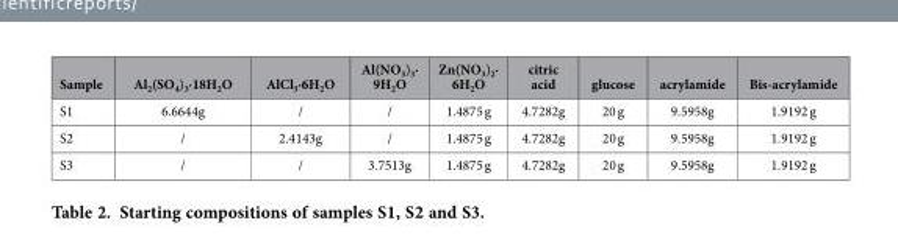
<table><thead><tr><td>Sample</td><td>Al<sub>2</sub>(SO<sub>4</sub>)<sub>3</sub>∙18H<sub>2</sub>O</td><td>AlCl<sub>3</sub>∙6H<sub>2</sub>O</td><td>Al(NO<sub>3</sub>)<sub>3</sub>∙ 9H<sub>2</sub>O</td><td>Zn(NO<sub>3</sub>)<sub>2</sub>∙ 6H<sub>2</sub>O</td><td>citric acid</td><td>glucose</td><td>acrylamide</td><td>Bis-acrylamide</td></tr></thead><tbody><tr><td>S1</td><td>6.6644g</td><td>/</td><td>/</td><td>1.4875 g</td><td>4.7282g</td><td>20 g</td><td>9.5958g</td><td>1.9192 g</td></tr><tr><td>S2</td><td>/</td><td>2.4143g</td><td>/</td><td>1.4875 g</td><td>4.7282g</td><td>20 g</td><td>9.5958g</td><td>1.9192 g</td></tr><tr><td>S3</td><td>/</td><td>/</td><td>3.7513g</td><td>1.4875 g</td><td>4.7282g</td><td>20 g</td><td>9.5958g</td><td>1.9192 g</td></tr></tbody></table>